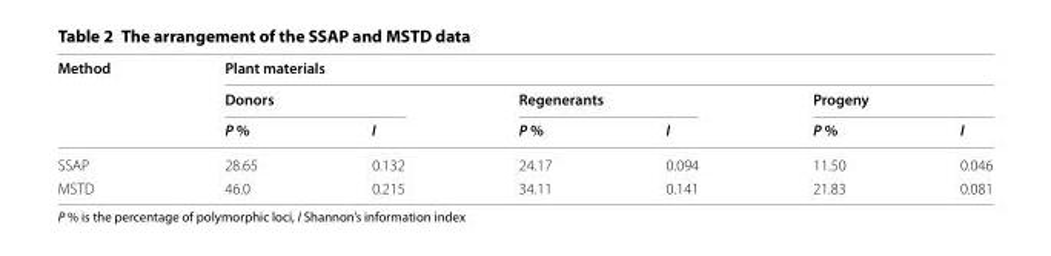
<table><thead><tr><td rowspan="3">Method</td><td colspan="6">Plant materials</td></tr><tr><td colspan="2">Donors</td><td colspan="2">Regenerants</td><td colspan="2">Progeny</td></tr><tr><td>P %</td><td>I</td><td>P %</td><td>I</td><td>P %</td><td>I</td></tr></thead><tbody><tr><td>SSAP</td><td>28.65</td><td>0.132</td><td>24.17</td><td>0.094</td><td>11.50</td><td>0.046</td></tr><tr><td>MSTD</td><td>46.0</td><td>0.215</td><td>34.11</td><td>0.141</td><td>21.83</td><td>0.081</td></tr></tbody></table>